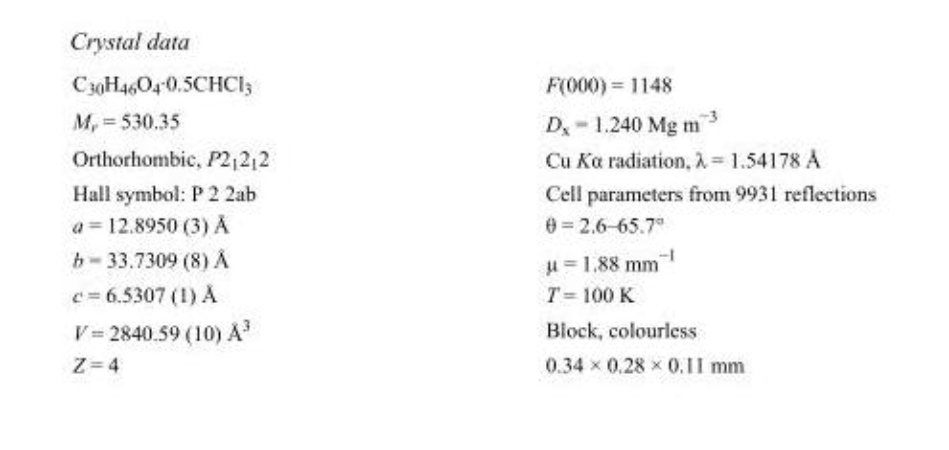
<table><tbody><tr><td>C<sub>30</sub>H<sub>46</sub>O<sub>4</sub>·0.5CHCl<sub>3</sub></td><td>F(000) = 1148</td></tr><tr><td>M<sub>r</sub> = 530.35</td><td>D<sub>x</sub> = 1.240 Mg m<sup>−3</sup></td></tr><tr><td>Orthorhombic, P2<sub>1</sub>2<sub>1</sub>2</td><td>Cu Kα radiation, λ = 1.54178 Å</td></tr><tr><td>Hall symbol: P 2 2ab</td><td>Cell parameters from 9931 reflections</td></tr><tr><td>a = 12.8950 (3) Å</td><td>θ = 2.6–65.7°</td></tr><tr><td>b = 33.7309 (8) Å</td><td>µ = 1.88 mm<sup>−1</sup></td></tr><tr><td>c = 6.5307 (1) Å</td><td>T = 100 K</td></tr><tr><td>V = 2840.59 (10) Å<sup>3</sup></td><td>Block, colourless</td></tr><tr><td>Z = 4</td><td>0.34 × 0.28 × 0.11 mm</td></tr></tbody></table>